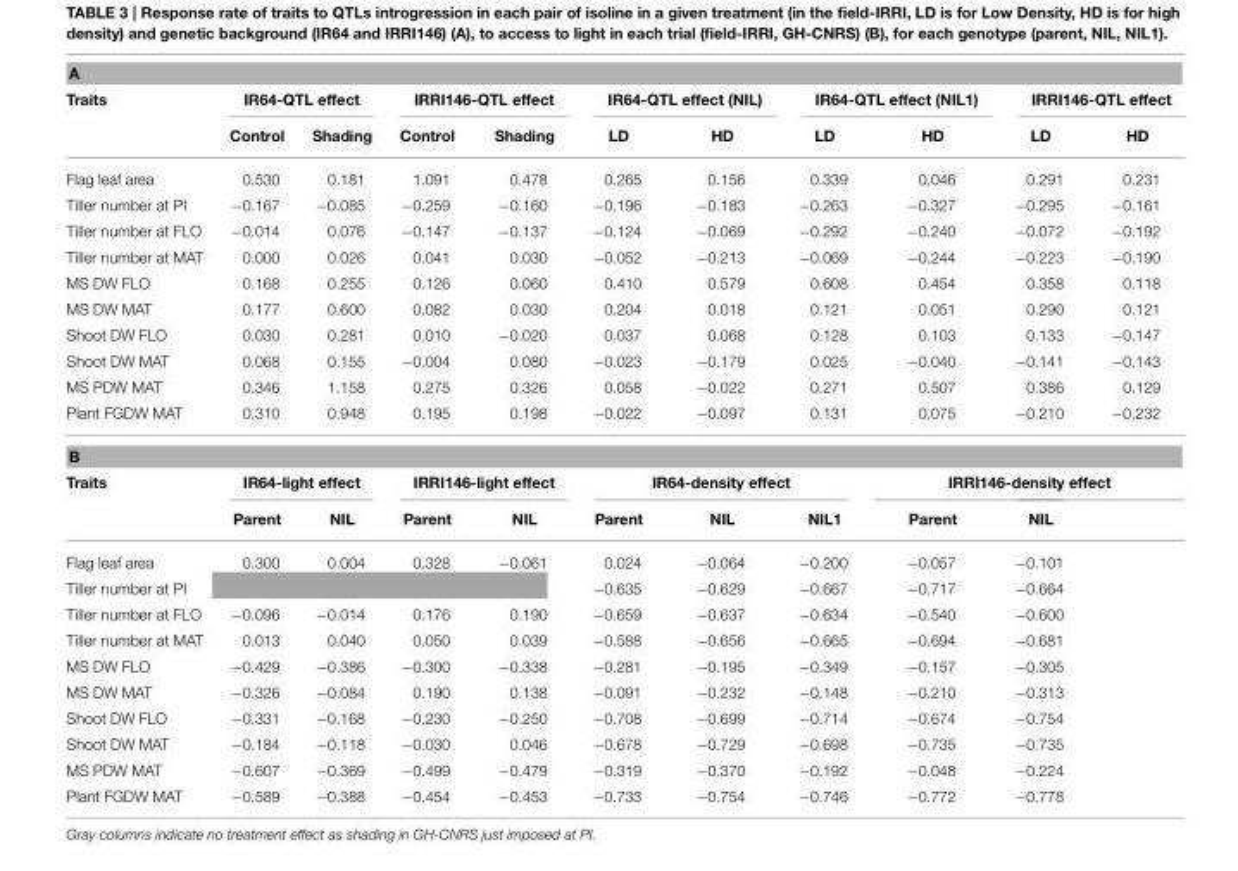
<table><thead><tr><td colspan="11">A</td></tr><tr><td rowspan="2">Traits</td><td colspan="2">IR64-QTL effect</td><td colspan="2">IRRI146-QTL effect</td><td colspan="2">IR64-QTL effect (NIL)</td><td colspan="2">IR64-QTL effect (NIL1)</td><td colspan="2">IRRI146-QTL effect</td></tr><tr><td>Control</td><td>Shading</td><td>Control</td><td>Shading</td><td>LD</td><td>HD</td><td>LD</td><td>HD</td><td>LD</td><td>HD</td></tr></thead><tbody><tr><td>Flag leaf area</td><td>0.530</td><td>0.181</td><td>1.091</td><td>0.478</td><td>0.265</td><td>0.156</td><td>0.339</td><td>0.046</td><td>0.291</td><td>0.231</td></tr><tr><td>Tiller number at PI</td><td>−0.167</td><td>−0.085</td><td>−0.259</td><td>−0.160</td><td>−0.196</td><td>−0.183</td><td>−0.263</td><td>−0.327</td><td>−0.295</td><td>−0.161</td></tr><tr><td>Tiller number at FLO</td><td>−0.014</td><td>0.076</td><td>−0.147</td><td>−0.137</td><td>−0.124</td><td>−0.069</td><td>−0.292</td><td>−0.240</td><td>−0.072</td><td>−0.192</td></tr><tr><td>Tiller number at MAT</td><td>0.000</td><td>0.026</td><td>0.041</td><td>0.030</td><td>−0.052</td><td>−0.213</td><td>−0.069</td><td>−0.244</td><td>−0.223</td><td>−0.190</td></tr><tr><td>MS DW FLO</td><td>0.168</td><td>0.255</td><td>0.126</td><td>0.060</td><td>0.410</td><td>0.579</td><td>0.608</td><td>0.454</td><td>0.358</td><td>0.118</td></tr><tr><td>MS DW MAT</td><td>0.177</td><td>0.600</td><td>0.082</td><td>0.030</td><td>0.204</td><td>0.018</td><td>0.121</td><td>0.051</td><td>0.290</td><td>0.121</td></tr><tr><td>Shoot DW FLO</td><td>0.030</td><td>0.281</td><td>0.010</td><td>−0.020</td><td>0.037</td><td>0.068</td><td>0.128</td><td>0.103</td><td>0.133</td><td>−0.147</td></tr><tr><td>Shoot DW MAT</td><td>0.068</td><td>0.155</td><td>−0.004</td><td>0.080</td><td>−0.023</td><td>−0.179</td><td>0.025</td><td>−0.040</td><td>−0.141</td><td>−0.143</td></tr><tr><td>MS PDW MAT</td><td>0.346</td><td>1.158</td><td>0.275</td><td>0.326</td><td>0.058</td><td>−0.022</td><td>0.271</td><td>0.507</td><td>0.386</td><td>0.129</td></tr><tr><td>Plant FGDW MAT</td><td>0.310</td><td>0.948</td><td>0.195</td><td>0.198</td><td>−0.022</td><td>−0.097</td><td>0.131</td><td>0.075</td><td>−0.210</td><td>−0.232</td></tr><tr><td colspan="11">B</td></tr><tr><td rowspan="2">Traits</td><td colspan="2">IR64-light effect</td><td colspan="2">IRRI146-light effect</td><td colspan="3">IR64-density effect</td><td colspan="3">IRRI146-density effect</td></tr><tr><td>Parent</td><td>NIL</td><td>Parent</td><td>NIL</td><td>Parent</td><td>NIL</td><td>NIL1</td><td>Parent</td><td>NIL</td><td></td></tr><tr><td>Flag leaf area</td><td>0.300</td><td>0.004</td><td>0.328</td><td>−0.061</td><td>0.024</td><td>−0.064</td><td>−0.200</td><td>−0.057</td><td>−0.101</td><td></td></tr><tr><td>Tiller number at PI</td><td></td><td></td><td></td><td></td><td>−0.635</td><td>−0.629</td><td>−0.667</td><td>−0.717</td><td>−0.664</td><td></td></tr><tr><td>Tiller number at FLO</td><td>−0.096</td><td>−0.014</td><td>0.176</td><td>0.190</td><td>−0.659</td><td>−0.637</td><td>−0.634</td><td>−0.540</td><td>−0.600</td><td></td></tr><tr><td>Tiller number at MAT</td><td>0.013</td><td>0.040</td><td>0.050</td><td>0.039</td><td>−0.588</td><td>−0.656</td><td>−0.665</td><td>−0.694</td><td>−0.681</td><td></td></tr><tr><td>MS DW FLO</td><td>−0.429</td><td>−0.386</td><td>−0.300</td><td>−0.338</td><td>−0.281</td><td>−0.195</td><td>−0.349</td><td>−0.157</td><td>−0.305</td><td></td></tr><tr><td>MS DW MAT</td><td>−0.326</td><td>−0.084</td><td>0.190</td><td>0.138</td><td>−0.091</td><td>−0.232</td><td>−0.148</td><td>−0.210</td><td>−0.313</td><td></td></tr><tr><td>Shoot DW FLO</td><td>−0.331</td><td>−0.168</td><td>−0.230</td><td>−0.250</td><td>−0.708</td><td>−0.699</td><td>−0.714</td><td>−0.674</td><td>−0.754</td><td></td></tr><tr><td>Shoot DW MAT</td><td>−0.184</td><td>−0.118</td><td>−0.030</td><td>0.046</td><td>−0.678</td><td>−0.729</td><td>−0.698</td><td>−0.735</td><td>−0.735</td><td></td></tr><tr><td>MS PDW MAT</td><td>−0.607</td><td>−0.369</td><td>−0.499</td><td>−0.479</td><td>−0.319</td><td>−0.370</td><td>−0.192</td><td>−0.048</td><td>−0.224</td><td></td></tr><tr><td>Plant FGDW MAT</td><td>−0.589</td><td>−0.388</td><td>−0.454</td><td>−0.453</td><td>−0.733</td><td>−0.754</td><td>−0.746</td><td>−0.772</td><td>−0.778</td><td></td></tr></tbody></table>